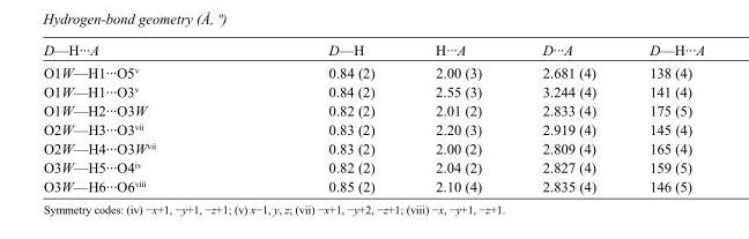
<table><tbody><tr><td>D—H···A</td><td>D—H</td><td>H···A</td><td>D···A</td><td>D—H···A</td></tr><tr><td>O1W—H1···O5<sup>v</sup></td><td>0.84 (2)</td><td>2.00 (3)</td><td>2.681 (4)</td><td>138 (4)</td></tr><tr><td>O1W—H1···O3<sup>v</sup></td><td>0.84 (2)</td><td>2.55 (3)</td><td>3.244 (4)</td><td>141 (4)</td></tr><tr><td>O1W—H2···O3W</td><td>0.82 (2)</td><td>2.01 (2)</td><td>2.833 (4)</td><td>175 (5)</td></tr><tr><td>O2W—H3···O3<sup>vii</sup></td><td>0.83 (2)</td><td>2.20 (3)</td><td>2.919 (4)</td><td>145 (4)</td></tr><tr><td>O2W—H4···O3W<sup>vii</sup></td><td>0.83 (2)</td><td>2.00 (2)</td><td>2.809 (4)</td><td>165 (4)</td></tr><tr><td>O3W—H5···O4<sup>iv</sup></td><td>0.82 (2)</td><td>2.04 (2)</td><td>2.827 (4)</td><td>159 (5)</td></tr><tr><td>O3W—H6···O6<sup>viii</sup></td><td>0.85 (2)</td><td>2.10 (4)</td><td>2.835 (4)</td><td>146 (5)</td></tr></tbody></table>